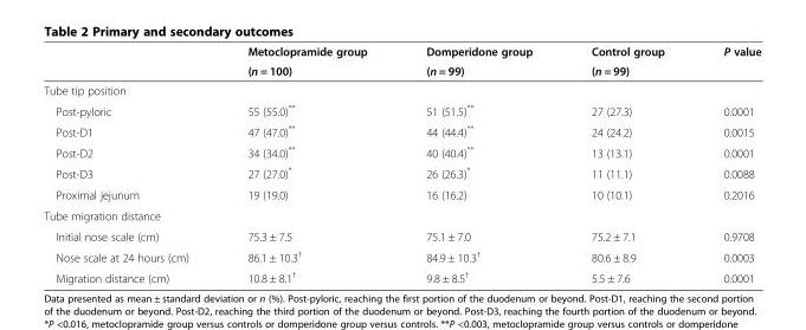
<table><thead><tr><td rowspan="2"></td><td rowspan="2">Metoclopramide group (n = 100)</td><td rowspan="2">Domperidone group (n = 99)</td><td rowspan="2">Control group (n = 99)</td><td rowspan="2">P value</td></tr><tr></tr></thead><tbody><tr><td colspan="5">Tube tip position</td></tr><tr><td>Post-pyloric</td><td>55 (55.0)**</td><td>51 (51.5)**</td><td>27 (27.3)</td><td>0.0001</td></tr><tr><td>Post-D1</td><td>47 (47.0)**</td><td>44 (44.4)**</td><td>24 (24.2)</td><td>0.0015</td></tr><tr><td>Post-D2</td><td>34 (34.0)**</td><td>40 (40.4)**</td><td>13 (13.1)</td><td>0.0001</td></tr><tr><td>Post-D3</td><td>27 (27.0)*</td><td>26 (26.3)*</td><td>11 (11.1)</td><td>0.0088</td></tr><tr><td>Proximal jejunum</td><td>19 (19.0)</td><td>16 (16.2)</td><td>10 (10.1)</td><td>0.2016</td></tr><tr><td colspan="5">Tube migration distance</td></tr><tr><td>Initial nose scale (cm)</td><td>75.3 ± 7.5</td><td>75.1 ± 7.0</td><td>75.2 ± 7.1</td><td>0.9708</td></tr><tr><td>Nose scale at 24 hours (cm)</td><td>86.1 ± 10.3<sup>†</sup></td><td>84.9 ± 10.3<sup>†</sup></td><td>80.6 ± 8.9</td><td>0.0003</td></tr><tr><td>Migration distance (cm)</td><td>10.8 ± 8.1<sup>†</sup></td><td>9.8 ± 8.5<sup>†</sup></td><td>5.5 ± 7.6</td><td>0.0001</td></tr></tbody></table>